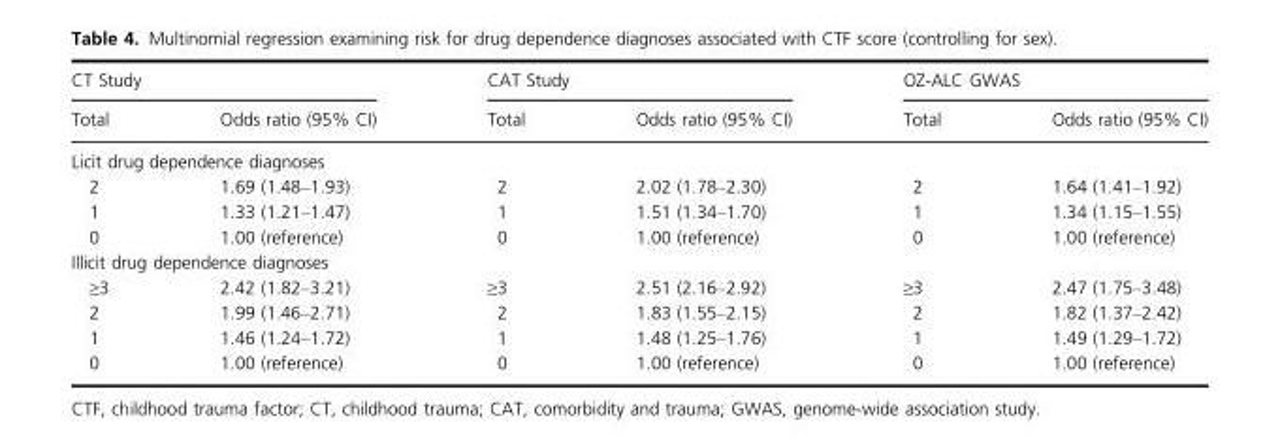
<table><thead><tr><td colspan="2">CT Study</td><td colspan="2">CAT Study</td><td colspan="2">OZ-ALC GWAS</td></tr><tr><td>Total</td><td>Odds ratio (95% CI)</td><td>Total</td><td>Odds ratio (95% CI)</td><td>Total</td><td>Odds ratio (95% CI)</td></tr></thead><tbody><tr><td colspan="6">Licit drug dependence diagnoses</td></tr><tr><td>2</td><td>1.69 (1.48–1.93)</td><td>2</td><td>2.02 (1.78–2.30)</td><td>2</td><td>1.64 (1.41–1.92)</td></tr><tr><td>1</td><td>1.33 (1.21–1.47)</td><td>1</td><td>1.51 (1.34–1.70)</td><td>1</td><td>1.34 (1.15–1.55)</td></tr><tr><td>0</td><td>1.00 (reference)</td><td>0</td><td>1.00 (reference)</td><td>0</td><td>1.00 (reference)</td></tr><tr><td colspan="6">Illicit drug dependence diagnoses</td></tr><tr><td>≥3</td><td>2.42 (1.82–3.21)</td><td>≥3</td><td>2.51 (2.16–2.92)</td><td>≥3</td><td>2.47 (1.75–3.48)</td></tr><tr><td>2</td><td>1.99 (1.46–2.71)</td><td>2</td><td>1.83 (1.55–2.15)</td><td>2</td><td>1.82 (1.37–2.42)</td></tr><tr><td>1</td><td>1.46 (1.24–1.72)</td><td>1</td><td>1.48 (1.25–1.76)</td><td>1</td><td>1.49 (1.29–1.72)</td></tr><tr><td>0</td><td>1.00 (reference)</td><td>0</td><td>1.00 (reference)</td><td>0</td><td>1.00 (reference)</td></tr></tbody></table>